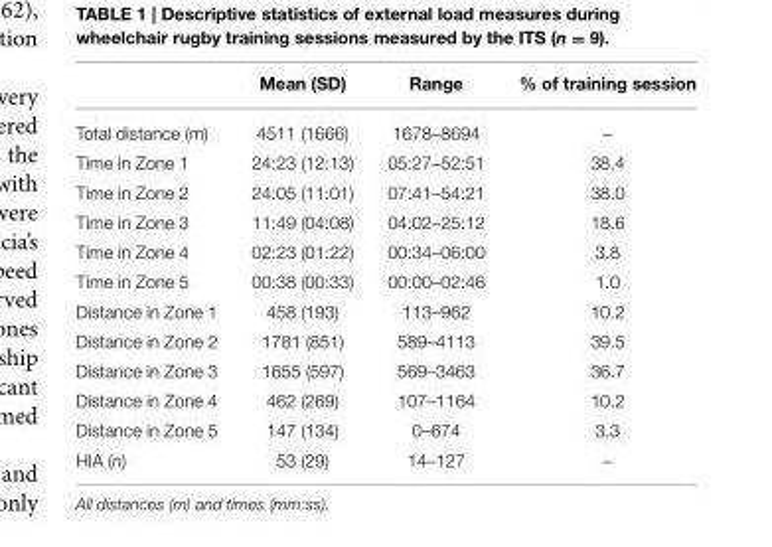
<table><thead><tr><td></td><td>Mean (SD)</td><td>Range</td><td>% of training session</td></tr></thead><tbody><tr><td>Total distance (m)</td><td>4511 (1666)</td><td>1678–8694</td><td>–</td></tr><tr><td>Time in Zone 1</td><td>24:23 (12:13)</td><td>05:27–52:51</td><td>38.4</td></tr><tr><td>Time in Zone 2</td><td>24:05 (11:01)</td><td>07:41–54:21</td><td>38.0</td></tr><tr><td>Time in Zone 3</td><td>11:49 (04:08)</td><td>04:02–25:12</td><td>18.6</td></tr><tr><td>Time in Zone 4</td><td>02:23 (01:22)</td><td>00:34–06:00</td><td>3.8</td></tr><tr><td>Time in Zone 5</td><td>00:38 (00:33)</td><td>00:00–02:46</td><td>1.0</td></tr><tr><td>Distance in Zone 1</td><td>458 (193)</td><td>113–962</td><td>10.2</td></tr><tr><td>Distance in Zone 2</td><td>1781 (851)</td><td>589–4113</td><td>39.5</td></tr><tr><td>Distance in Zone 3</td><td>1655 (597)</td><td>569–3463</td><td>36.7</td></tr><tr><td>Distance in Zone 4</td><td>462 (269)</td><td>107–1164</td><td>10.2</td></tr><tr><td>Distance in Zone 5</td><td>147 (134)</td><td>0–674</td><td>3.3</td></tr><tr><td>HIA (n)</td><td>53 (29)</td><td>14–127</td><td>–</td></tr></tbody></table>